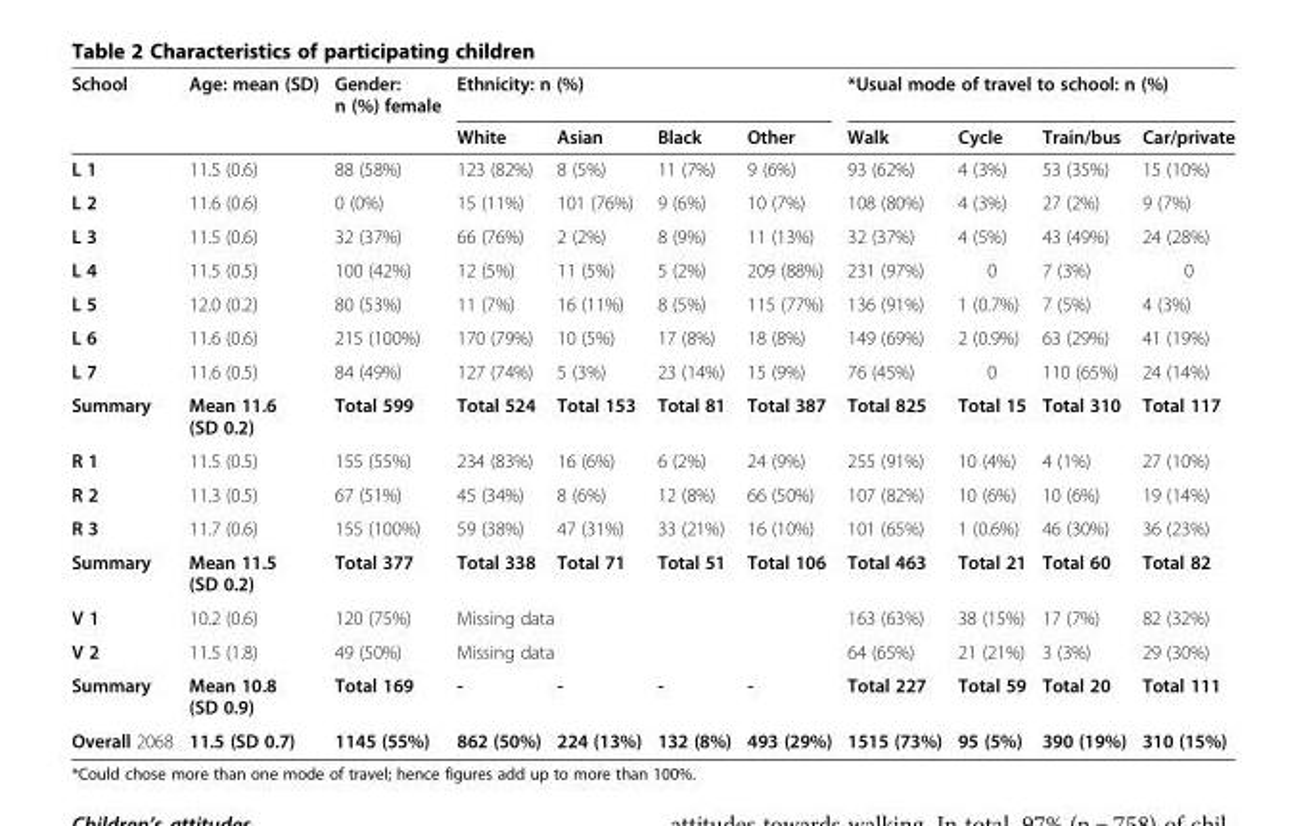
<table><thead><tr><td rowspan="2">School</td><td rowspan="2">Age: mean (SD)</td><td rowspan="2">Gender: n (%) female</td><td colspan="4">Ethnicity: n (%)</td><td colspan="4">*Usual mode of travel to school: n (%)</td></tr><tr><td>White</td><td>Asian</td><td>Black</td><td>Other</td><td>Walk</td><td>Cycle</td><td>Train/bus</td><td>Car/private</td></tr></thead><tbody><tr><td>L 1</td><td>11.5 (0.6)</td><td>88 (58%)</td><td>123 (82%)</td><td>8 (5%)</td><td>11 (7%)</td><td>9 (6%)</td><td>93 (62%)</td><td>4 (3%)</td><td>53 (35%)</td><td>15 (10%)</td></tr><tr><td>L 2</td><td>11.6 (0.6)</td><td>0 (0%)</td><td>15 (11%)</td><td>101 (76%)</td><td>9 (6%)</td><td>10 (7%)</td><td>108 (80%)</td><td>4 (3%)</td><td>27 (2%)</td><td>9 (7%)</td></tr><tr><td>L 3</td><td>11.5 (0.6)</td><td>32 (37%)</td><td>66 (76%)</td><td>2 (2%)</td><td>8 (9%)</td><td>11 (13%)</td><td>32 (37%)</td><td>4 (5%)</td><td>43 (49%)</td><td>24 (28%)</td></tr><tr><td>L 4</td><td>11.5 (0.5)</td><td>100 (42%)</td><td>12 (5%)</td><td>11 (5%)</td><td>5 (2%)</td><td>209 (88%)</td><td>231 (97%)</td><td>0</td><td>7 (3%)</td><td>0</td></tr><tr><td>L 5</td><td>12.0 (0.2)</td><td>80 (53%)</td><td>11 (7%)</td><td>16 (11%)</td><td>8 (5%)</td><td>115 (77%)</td><td>136 (91%)</td><td>1 (0.7%)</td><td>7 (5%)</td><td>4 (3%)</td></tr><tr><td>L 6</td><td>11.6 (0.6)</td><td>215 (100%)</td><td>170 (79%)</td><td>10 (5%)</td><td>17 (8%)</td><td>18 (8%)</td><td>149 (69%)</td><td>2 (0.9%)</td><td>63 (29%)</td><td>41 (19%)</td></tr><tr><td>L 7</td><td>11.6 (0.5)</td><td>84 (49%)</td><td>127 (74%)</td><td>5 (3%)</td><td>23 (14%)</td><td>15 (9%)</td><td>76 (45%)</td><td>0</td><td>110 (65%)</td><td>24 (14%)</td></tr><tr><td>Summary</td><td>Mean 11.6 (SD 0.2)</td><td>Total 599</td><td>Total 524</td><td>Total 153</td><td>Total 81</td><td>Total 387</td><td>Total 825</td><td>Total 15</td><td>Total 310</td><td>Total 117</td></tr><tr><td>R 1</td><td>11.5 (0.5)</td><td>155 (55%)</td><td>234 (83%)</td><td>16 (6%)</td><td>6 (2%)</td><td>24 (9%)</td><td>255 (91%)</td><td>10 (4%)</td><td>4 (1%)</td><td>27 (10%)</td></tr><tr><td>R 2</td><td>11.3 (0.5)</td><td>67 (51%)</td><td>45 (34%)</td><td>8 (6%)</td><td>12 (8%)</td><td>66 (50%)</td><td>107 (82%)</td><td>10 (6%)</td><td>10 (6%)</td><td>19 (14%)</td></tr><tr><td>R 3</td><td>11.7 (0.6)</td><td>155 (100%)</td><td>59 (38%)</td><td>47 (31%)</td><td>33 (21%)</td><td>16 (10%)</td><td>101 (65%)</td><td>1 (0.6%)</td><td>46 (30%)</td><td>36 (23%)</td></tr><tr><td>Summary</td><td>Mean 11.5 (SD 0.2)</td><td>Total 377</td><td>Total 338</td><td>Total 71</td><td>Total 51</td><td>Total 106</td><td>Total 463</td><td>Total 21</td><td>Total 60</td><td>Total 82</td></tr><tr><td>V 1</td><td>10.2 (0.6)</td><td>120 (75%)</td><td colspan="4">Missing data</td><td>163 (63%)</td><td>38 (15%)</td><td>17 (7%)</td><td>82 (32%)</td></tr><tr><td>V 2</td><td>11.5 (1.8)</td><td>49 (50%)</td><td colspan="4">Missing data</td><td>64 (65%)</td><td>21 (21%)</td><td>3 (3%)</td><td>29 (30%)</td></tr><tr><td>Summary</td><td>Mean 10.8 (SD 0.9)</td><td>Total 169</td><td>-</td><td>-</td><td>-</td><td>-</td><td>Total 227</td><td>Total 59</td><td>Total 20</td><td>Total 111</td></tr><tr><td>Overall 2068</td><td>11.5 (SD 0.7)</td><td>1145 (55%)</td><td>862 (50%)</td><td>224 (13%)</td><td>132 (8%)</td><td>493 (29%)</td><td>1515 (73%)</td><td>95 (5%)</td><td>390 (19%)</td><td>310 (15%)</td></tr></tbody></table>